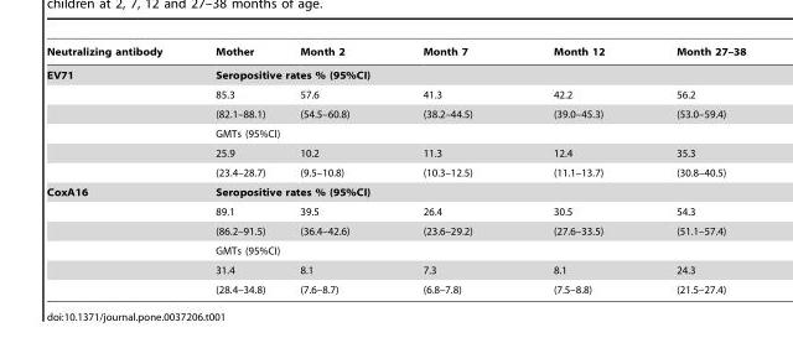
<table><thead><tr><td>Neutralizing antibody</td><td>Mother</td><td>Month 2</td><td>Month 7</td><td>Month 12</td><td>Month 27–38</td></tr></thead><tbody><tr><td rowspan="6">EV71</td><td colspan="5">Seropositive rates % (95%CI)</td></tr><tr><td>85.3</td><td>57.6</td><td>41.3</td><td>42.2</td><td>56.2</td></tr><tr><td>(82.1–88.1)</td><td>(54.5–60.8)</td><td>(38.2–44.5)</td><td>(39.0–45.3)</td><td>(53.0–59.4)</td></tr><tr><td colspan="5">GMTs (95%CI)</td></tr><tr><td>25.9</td><td>10.2</td><td>11.3</td><td>12.4</td><td>35.3</td></tr><tr><td>(23.4–28.7)</td><td>(9.5–10.8)</td><td>(10.3–12.5)</td><td>(11.1–13.7)</td><td>(30.8–40.5)</td></tr><tr><td rowspan="6">CoxA16</td><td colspan="5">Seropositive rates % (95%CI)</td></tr><tr><td>89.1</td><td>39.5</td><td>26.4</td><td>30.5</td><td>54.3</td></tr><tr><td>(86.2–91.5)</td><td>(36.4–42.6)</td><td>(23.6–29.2)</td><td>(27.6–33.5)</td><td>(51.1–57.4)</td></tr><tr><td colspan="5">GMTs (95%CI)</td></tr><tr><td>31.4</td><td>8.1</td><td>7.3</td><td>8.1</td><td>24.3</td></tr><tr><td>(28.4–34.8)</td><td>(7.6–8.7)</td><td>(6.8–7.8)</td><td>(7.5–8.8)</td><td>(21.5–27.4)</td></tr></tbody></table>